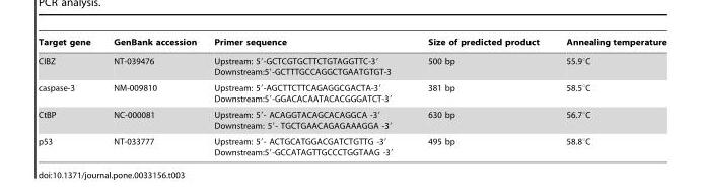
<table><thead><tr><td>Target gene</td><td>GenBank accession</td><td>Primer sequence</td><td>Size of predicted product</td><td>Annealing temperature</td></tr></thead><tbody><tr><td>CIBZ</td><td>NT-039476</td><td>Upstream: 5′-GCTCGTGCTTCTGTAGGTTC-3′ Downstream:5′-GCTTTGCCAGGCTGAATGTGT-3</td><td>500 bp</td><td>55.9°C</td></tr><tr><td>caspase-3</td><td>NM-009810</td><td>Upstream: 5′-AGCTTCTTCAGAGGCGACTA-3′ Downstream:5′-GGACACAATACACGGGATCT-3′</td><td>381 bp</td><td>58.5°C</td></tr><tr><td>CtBP</td><td>NC-000081</td><td>Upstream: 5′- ACAGGTACAGCACAGGCA -3′ Downstream: 5′- TGCTGAACAGAGAAAGGA -3′</td><td>630 bp</td><td>56.7°C</td></tr><tr><td>p53</td><td>NT-033777</td><td>Upstream: 5′- ACTGCATGGACGATCTGTTG -3′ Downstream:5′-GCCATAGTTGCCCTGGTAAG -3′</td><td>495 bp</td><td>58.8°C</td></tr></tbody></table>